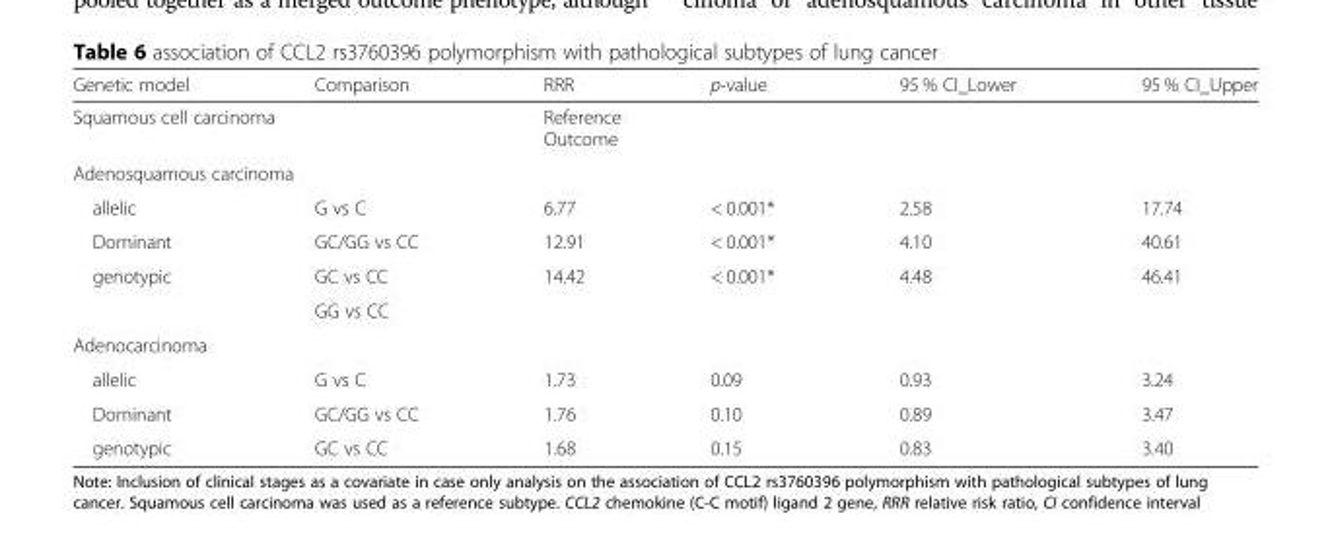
<table><thead><tr><td>Genetic model</td><td>Comparison</td><td>RRR</td><td>p-value</td><td>95 % CI_Lower</td><td>95 % CI_Upper</td></tr></thead><tbody><tr><td colspan="2">Squamous cell carcinoma</td><td colspan="2">Reference Outcome</td><td></td><td></td></tr><tr><td colspan="6">Adenosquamous carcinoma</td></tr><tr><td>allelic</td><td>G vs C</td><td>6.77</td><td>&lt; 0.001*</td><td>2.58</td><td>17.74</td></tr><tr><td>Dominant</td><td>GC/GG vs CC</td><td>12.91</td><td>&lt; 0.001*</td><td>4.10</td><td>40.61</td></tr><tr><td rowspan="2">genotypic</td><td>GC vs CC</td><td>14.42</td><td>&lt; 0.001*</td><td>4.48</td><td>46.41</td></tr><tr><td>GG vs CC</td><td></td><td></td><td></td><td></td></tr><tr><td colspan="6">Adenocarcinoma</td></tr><tr><td>allelic</td><td>G vs C</td><td>1.73</td><td>0.09</td><td>0.93</td><td>3.24</td></tr><tr><td>Dominant</td><td>GC/GG vs CC</td><td>1.76</td><td>0.10</td><td>0.89</td><td>3.47</td></tr><tr><td>genotypic</td><td>GC vs CC</td><td>1.68</td><td>0.15</td><td>0.83</td><td>3.40</td></tr></tbody></table>